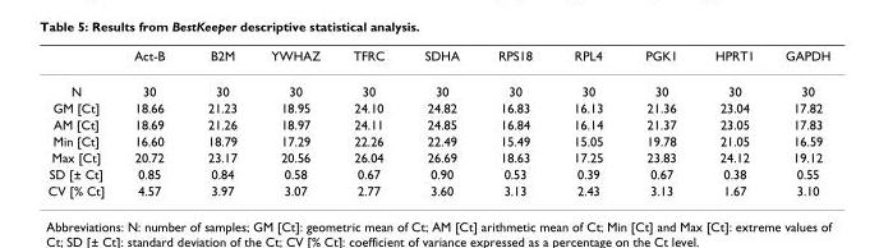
<table><thead><tr><td></td><td>Act-B</td><td>B2M</td><td>YWHAZ</td><td>TFRC</td><td>SDHA</td><td>RPS18</td><td>RPL4</td><td>PGK1</td><td>HPRT1</td><td>GAPDH</td></tr></thead><tbody><tr><td>N</td><td>30</td><td>30</td><td>30</td><td>30</td><td>30</td><td>30</td><td>30</td><td>30</td><td>30</td><td>30</td></tr><tr><td>GM [Ct]</td><td>18.66</td><td>21.23</td><td>18.95</td><td>24.10</td><td>24.82</td><td>16.83</td><td>16.13</td><td>21.36</td><td>23.04</td><td>17.82</td></tr><tr><td>AM [Ct]</td><td>18.69</td><td>21.26</td><td>18.97</td><td>24.11</td><td>24.85</td><td>16.84</td><td>16.14</td><td>21.37</td><td>23.05</td><td>17.83</td></tr><tr><td>Min [Ct]</td><td>16.60</td><td>18.79</td><td>17.29</td><td>22.26</td><td>22.49</td><td>15.49</td><td>15.05</td><td>19.78</td><td>21.05</td><td>16.59</td></tr><tr><td>Max [Ct]</td><td>20.72</td><td>23.17</td><td>20.56</td><td>26.04</td><td>26.69</td><td>18.63</td><td>17.25</td><td>23.83</td><td>24.12</td><td>19.12</td></tr><tr><td>SD [± Ct]</td><td>0.85</td><td>0.84</td><td>0.58</td><td>0.67</td><td>0.90</td><td>0.53</td><td>0.39</td><td>0.67</td><td>0.38</td><td>0.55</td></tr><tr><td>CV [% Ct]</td><td>4.57</td><td>3.97</td><td>3.07</td><td>2.77</td><td>3.60</td><td>3.13</td><td>2.43</td><td>3.13</td><td>1.67</td><td>3.10</td></tr></tbody></table>